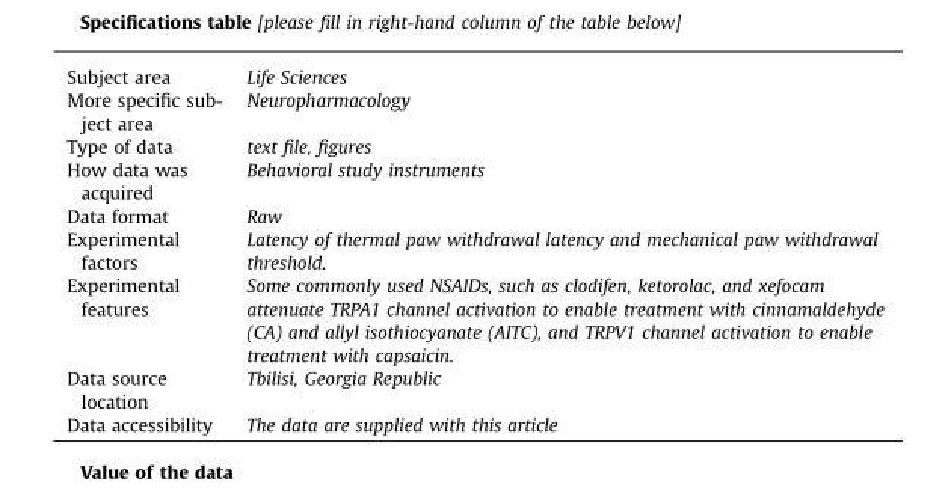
<table><tbody><tr><td>Subject area</td><td>Life Sciences</td></tr><tr><td>More specific sub- ject area</td><td>Neuropharmacology</td></tr><tr><td>Type of data</td><td>text file, figures</td></tr><tr><td>How data was acquired</td><td>Behavioral study instruments</td></tr><tr><td>Data format</td><td>Raw</td></tr><tr><td>Experimental factors</td><td>Latency of thermal paw withdrawal latency and mechanical paw withdrawal threshold.</td></tr><tr><td>Experimental features</td><td>Some commonly used NSAIDs, such as clodifen, ketorolac, and xefocam attenuate TRPA1 channel activation to enable treatment with cinnamaldehyde (CA) and allyl isothiocyanate (AITC), and TRPV1 channel activation to enable treatment with capsaicin.</td></tr><tr><td>Data source location</td><td>Tbilisi, Georgia Republic</td></tr><tr><td>Data accessibility</td><td>The data are supplied with this article</td></tr></tbody></table>